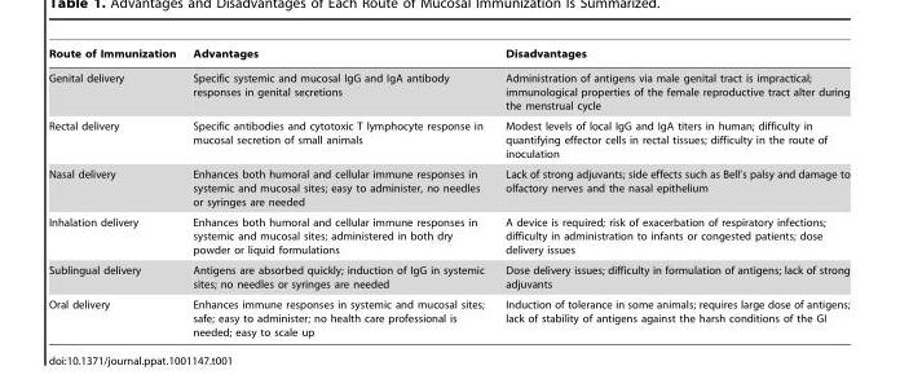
<table><thead><tr><td>Route of Immunization</td><td>Advantages</td><td>Disadvantages</td></tr></thead><tbody><tr><td>Genital delivery</td><td>Specific systemic and mucosal IgG and IgA antibody responses in genital secretions</td><td>Administration of antigens via male genital tract is impractical; immunological properties of the female reproductive tract alter during the menstrual cycle</td></tr><tr><td>Rectal delivery</td><td>Specific antibodies and cytotoxic T lymphocyte response in mucosal secretion of small animals</td><td>Modest levels of local IgG and IgA titers in human; difficulty in quantifying effector cells in rectal tissues; difficulty in the route of inoculation</td></tr><tr><td>Nasal delivery</td><td>Enhances both humoral and cellular immune responses in systemic and mucosal sites; easy to administer, no needles or syringes are needed</td><td>Lack of strong adjuvants; side effects such as Bell’s palsy and damage to olfactory nerves and the nasal epithelium</td></tr><tr><td>Inhalation delivery</td><td>Enhances both humoral and cellular immune responses in systemic and mucosal sites; administered in both dry powder or liquid formulations</td><td>A device is required; risk of exacerbation of respiratory infections; difficulty in administration to infants or congested patients; dose delivery issues</td></tr><tr><td>Sublingual delivery</td><td>Antigens are absorbed quickly; induction of IgG in systemic sites; no needles or syringes are needed</td><td>Dose delivery issues; difficulty in formulation of antigens; lack of strong adjuvants</td></tr><tr><td>Oral delivery</td><td>Enhances immune responses in systemic and mucosal sites; safe; easy to administer; no health care professional is needed; easy to scale up</td><td>Induction of tolerance in some animals; requires large dose of antigens; lack of stability of antigens against the harsh conditions of the GI</td></tr></tbody></table>